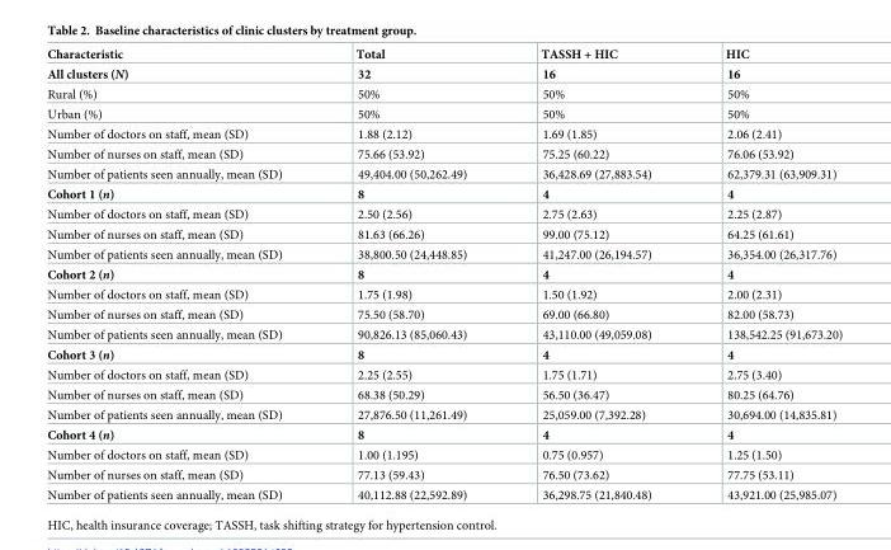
<table><thead><tr><td>Characteristic</td><td>Total</td><td>TASSH + HIC</td><td>HIC</td></tr></thead><tbody><tr><td>All clusters (N)</td><td>32</td><td>16</td><td>16</td></tr><tr><td>Rural (%)</td><td>50%</td><td>50%</td><td>50%</td></tr><tr><td>Urban (%)</td><td>50%</td><td>50%</td><td>50%</td></tr><tr><td>Number of doctors on staff, mean (SD)</td><td>1.88 (2.12)</td><td>1.69 (1.85)</td><td>2.06 (2.41)</td></tr><tr><td>Number of nurses on staff, mean (SD)</td><td>75.66 (53.92)</td><td>75.25 (60.22)</td><td>76.06 (53.92)</td></tr><tr><td>Number of patients seen annually, mean (SD)</td><td>49,404.00 (50,262.49)</td><td>36,428.69 (27,883.54)</td><td>62,379.31 (63,909.31)</td></tr><tr><td>Cohort 1 (n)</td><td>8</td><td>4</td><td>4</td></tr><tr><td>Number of doctors on staff, mean (SD)</td><td>2.50 (2.56)</td><td>2.75 (2.63)</td><td>2.25 (2.87)</td></tr><tr><td>Number of nurses on staff, mean (SD)</td><td>81.63 (66.26)</td><td>99.00 (75.12)</td><td>64.25 (61.61)</td></tr><tr><td>Number of patients seen annually, mean (SD)</td><td>38,800.50 (24,448.85)</td><td>41,247.00 (26,194.57)</td><td>36,354.00 (26,317.76)</td></tr><tr><td>Cohort 2 (n)</td><td>8</td><td>4</td><td>4</td></tr><tr><td>Number of doctors on staff, mean (SD)</td><td>1.75 (1.98)</td><td>1.50 (1.92)</td><td>2.00 (2.31)</td></tr><tr><td>Number of nurses on staff, mean (SD)</td><td>75.50 (58.70)</td><td>69.00 (66.80)</td><td>82.00 (58.73)</td></tr><tr><td>Number of patients seen annually, mean (SD)</td><td>90,826.13 (85,060.43)</td><td>43,110.00 (49,059.08)</td><td>138,542.25 (91,673.20)</td></tr><tr><td>Cohort 3 (n)</td><td>8</td><td>4</td><td>4</td></tr><tr><td>Number of doctors on staff, mean (SD)</td><td>2.25 (2.55)</td><td>1.75 (1.71)</td><td>2.75 (3.40)</td></tr><tr><td>Number of nurses on staff, mean (SD)</td><td>68.38 (50.29)</td><td>56.50 (36.47)</td><td>80.25 (64.76)</td></tr><tr><td>Number of patients seen annually, mean (SD)</td><td>27,876.50 (11,261.49)</td><td>25,059.00 (7,392.28)</td><td>30,694.00 (14,835.81)</td></tr><tr><td>Cohort 4 (n)</td><td>8</td><td>4</td><td>4</td></tr><tr><td>Number of doctors on staff, mean (SD)</td><td>1.00 (1.195)</td><td>0.75 (0.957)</td><td>1.25 (1.50)</td></tr><tr><td>Number of nurses on staff, mean (SD)</td><td>77.13 (59.43)</td><td>76.50 (73.62)</td><td>77.75 (53.11)</td></tr><tr><td>Number of patients seen annually, mean (SD)</td><td>40,112.88 (22,592.89)</td><td>36,298.75 (21,840.48)</td><td>43,921.00 (25,985.07)</td></tr></tbody></table>